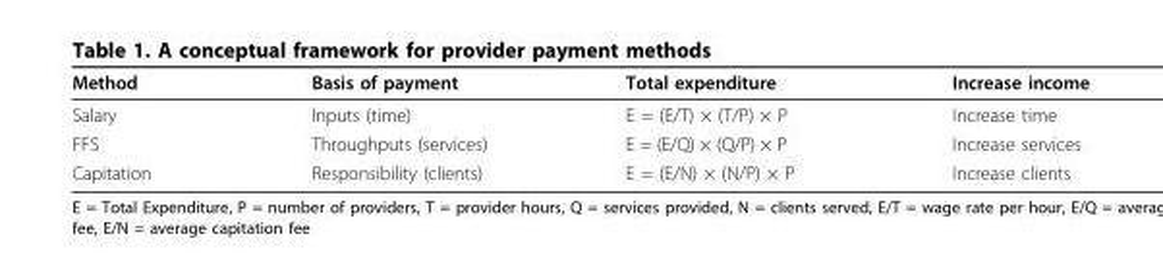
<table><tbody><tr><td>Method</td><td>Basis of payment</td><td>Total expenditure</td><td>Increase income</td></tr><tr><td>Salary</td><td>Inputs (time)</td><td>E = (E/T) × (T/P) × P</td><td>Increase time</td></tr><tr><td>FFS</td><td>Throughputs (services)</td><td>E = (E/Q) × (Q/P) × P</td><td>Increase services</td></tr><tr><td>Capitation</td><td>Responsibility (clients)</td><td>E = (E/N) × (N/P) × P</td><td>Increase clients</td></tr></tbody></table>